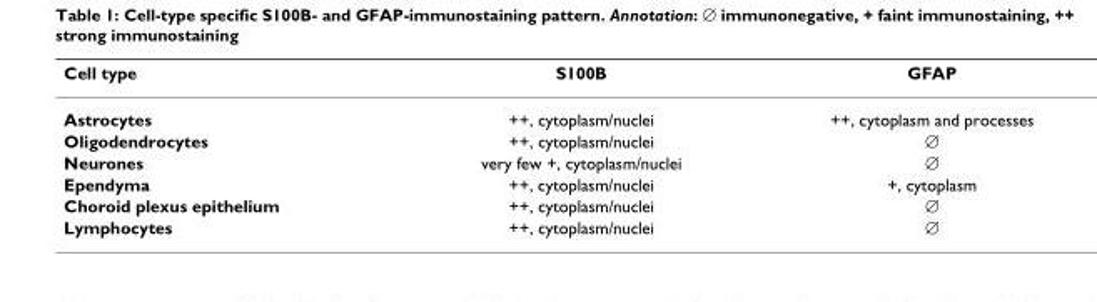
<table><thead><tr><td>Cell type</td><td>S100B</td><td>GFAP</td></tr></thead><tbody><tr><td>Astrocytes</td><td>++, cytoplasm/nuclei</td><td>++, cytoplasm and processes</td></tr><tr><td>Oligodendrocytes</td><td>++, cytoplasm/nuclei</td><td>∅</td></tr><tr><td>Neurones</td><td>very few +, cytoplasm/nuclei</td><td>∅</td></tr><tr><td>Ependyma</td><td>++, cytoplasm/nuclei</td><td>+, cytoplasm</td></tr><tr><td>Choroid plexus epithelium</td><td>++, cytoplasm/nuclei</td><td>∅</td></tr><tr><td>Lymphocytes</td><td>++, cytoplasm/nuclei</td><td>∅</td></tr></tbody></table>